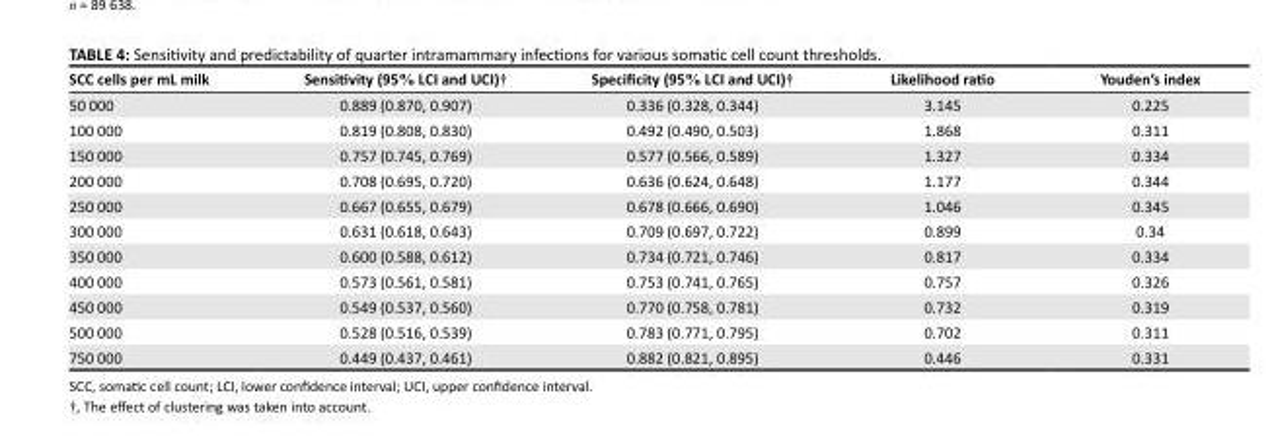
<table><thead><tr><td>SCC cells per mL milk</td><td>Sensitivity (95% LCI and UCI)<sup>†</sup></td><td>Specificity (95% LCI and UCI)<sup>†</sup></td><td>Likelihood ratio</td><td>Youden’s index</td></tr></thead><tbody><tr><td>50 000</td><td>0.889 (0.870, 0.907)</td><td>0.336 (0.328, 0.344)</td><td>3.145</td><td>0.225</td></tr><tr><td>100 000</td><td>0.819 (0.808, 0.830)</td><td>0.492 (0.490, 0.503)</td><td>1.868</td><td>0.311</td></tr><tr><td>150 000</td><td>0.757 (0.745, 0.769)</td><td>0.577 (0.566, 0.589)</td><td>1.327</td><td>0.334</td></tr><tr><td>200 000</td><td>0.708 (0.695, 0.720)</td><td>0.636 (0.624, 0.648)</td><td>1.177</td><td>0.344</td></tr><tr><td>250 000</td><td>0.667 (0.655, 0.679)</td><td>0.678 (0.666, 0.690)</td><td>1.046</td><td>0.345</td></tr><tr><td>300 000</td><td>0.631 (0.618, 0.643)</td><td>0.709 (0.697, 0.722)</td><td>0.899</td><td>0.34</td></tr><tr><td>350 000</td><td>0.600 (0.588, 0.612)</td><td>0.734 (0.721, 0.746)</td><td>0.817</td><td>0.334</td></tr><tr><td>400 000</td><td>0.573 (0.561, 0.581)</td><td>0.753 (0.741, 0.765)</td><td>0.757</td><td>0.326</td></tr><tr><td>450 000</td><td>0.549 (0.537, 0.560)</td><td>0.770 (0.758, 0.781)</td><td>0.732</td><td>0.319</td></tr><tr><td>500 000</td><td>0.528 (0.516, 0.539)</td><td>0.783 (0.771, 0.795)</td><td>0.702</td><td>0.311</td></tr><tr><td>750 000</td><td>0.449 (0.437, 0.461)</td><td>0.882 (0.821, 0.895)</td><td>0.446</td><td>0.331</td></tr></tbody></table>